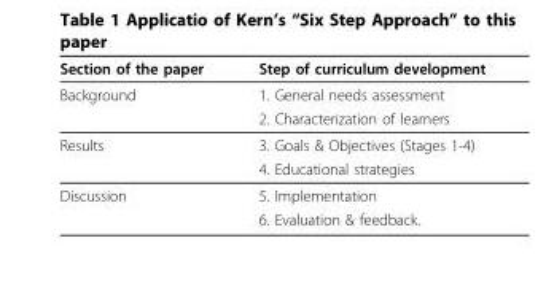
<table><thead><tr><td>Section of the paper</td><td>Step of curriculum development</td></tr></thead><tbody><tr><td rowspan="2">Background</td><td>1. General needs assessment</td></tr><tr><td>2. Characterization of learners</td></tr><tr><td rowspan="2">Results</td><td>3. Goals &amp; Objectives (Stages 1-4)</td></tr><tr><td>4. Educational strategies</td></tr><tr><td rowspan="2">Discussion</td><td>5. Implementation</td></tr><tr><td>6. Evaluation &amp; feedback.</td></tr></tbody></table>